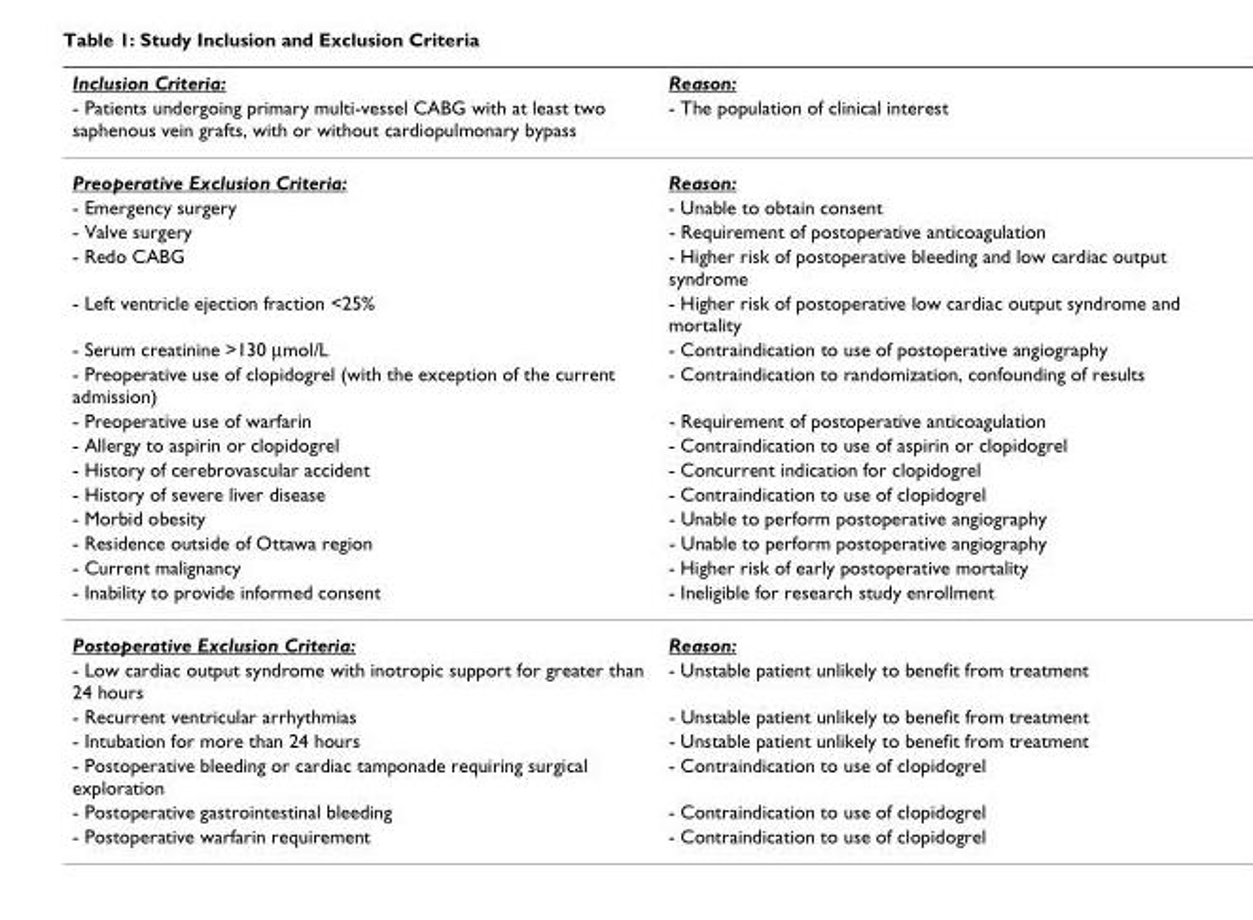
<table><thead><tr><td rowspan="2">Inclusion Criteria: - Patients undergoing primary multi-vessel CABG with at least two saphenous vein grafts, with or without cardiopulmonary bypass</td><td rowspan="2">Reason: - The population of clinical interest</td></tr><tr></tr></thead><tbody><tr><td>Preoperative Exclusion Criteria:</td><td>Reason:</td></tr><tr><td>- Emergency surgery</td><td>- Unable to obtain consent</td></tr><tr><td>- Valve surgery</td><td>- Requirement of postoperative anticoagulation</td></tr><tr><td>- Redo CABG</td><td>- Higher risk of postoperative bleeding and low cardiac output syndrome</td></tr><tr><td>- Left ventricle ejection fraction &lt;25%</td><td>- Higher risk of postoperative low cardiac output syndrome and mortality</td></tr><tr><td>- Serum creatinine &gt;130 µmol/L</td><td>- Contraindication to use of postoperative angiography</td></tr><tr><td>- Preoperative use of clopidogrel (with the exception of the current admission)</td><td>- Contraindication to randomization, confounding of results</td></tr><tr><td>- Preoperative use of warfarin</td><td>- Requirement of postoperative anticoagulation</td></tr><tr><td>- Allergy to aspirin or clopidogrel</td><td>- Contraindication to use of aspirin or clopidogrel</td></tr><tr><td>- History of cerebrovascular accident</td><td>- Concurrent indication for clopidogrel</td></tr><tr><td>- History of severe liver disease</td><td>- Contraindication to use of clopidogrel</td></tr><tr><td>- Morbid obesity</td><td>- Unable to perform postoperative angiography</td></tr><tr><td>- Residence outside of Ottawa region</td><td>- Unable to perform postoperative angiography</td></tr><tr><td>- Current malignancy</td><td>- Higher risk of early postoperative mortality</td></tr><tr><td>- Inability to provide informed consent</td><td>- Ineligible for research study enrollment</td></tr><tr><td>Postoperative Exclusion Criteria:</td><td>Reason:</td></tr><tr><td>- Low cardiac output syndrome with inotropic support for greater than 24 hours</td><td>- Unstable patient unlikely to benefit from treatment</td></tr><tr><td>- Recurrent ventricular arrhythmias</td><td>- Unstable patient unlikely to benefit from treatment</td></tr><tr><td>- Intubation for more than 24 hours</td><td>- Unstable patient unlikely to benefit from treatment</td></tr><tr><td>- Postoperative bleeding or cardiac tamponade requiring surgical exploration</td><td>- Contraindication to use of clopidogrel</td></tr><tr><td>- Postoperative gastrointestinal bleeding</td><td>- Contraindication to use of clopidogrel</td></tr><tr><td>- Postoperative warfarin requirement</td><td>- Contraindication to use of clopidogrel</td></tr></tbody></table>